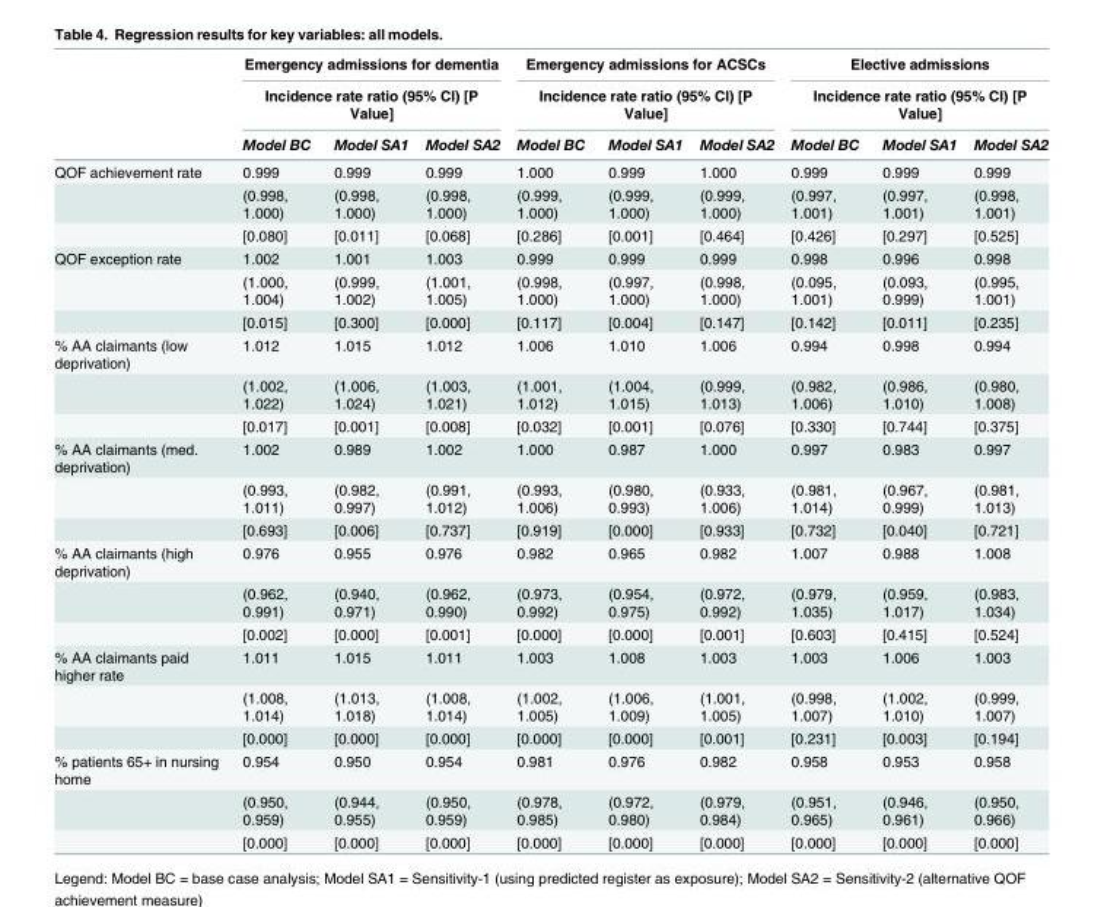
<table><thead><tr><td rowspan="3"></td><td rowspan="2" colspan="3">Emergency admissions for dementia Incidence rate ratio (95% CI) [P Value]</td><td rowspan="2" colspan="3">Emergency admissions for ACSCs Incidence rate ratio (95% CI) [P Value]</td><td rowspan="2" colspan="3">Elective admissions Incidence rate ratio (95% CI) [P Value]</td></tr><tr></tr><tr><td>Model BC</td><td>Model SA1</td><td>Model SA2</td><td>Model BC</td><td>Model SA1</td><td>Model SA2</td><td>Model BC</td><td>Model SA1</td><td>Model SA2</td></tr></thead><tbody><tr><td rowspan="3">QOF achievement rate</td><td>0.999</td><td>0.999</td><td>0.999</td><td>1.000</td><td>0.999</td><td>1.000</td><td>0.999</td><td>0.999</td><td>0.999</td></tr><tr><td>(0.998, 1.000)</td><td>(0.998, 1.000)</td><td>(0.998, 1.000)</td><td>(0.999, 1.000)</td><td>(0.999, 1.000)</td><td>(0.999, 1.000)</td><td>(0.997, 1.001)</td><td>(0.997, 1.001)</td><td>(0.998, 1.001)</td></tr><tr><td>[0.080]</td><td>[0.011]</td><td>[0.068]</td><td>[0.286]</td><td>[0.001]</td><td>[0.464]</td><td>[0.426]</td><td>[0.297]</td><td>[0.525]</td></tr><tr><td rowspan="3">QOF exception rate</td><td>1.002</td><td>1.001</td><td>1.003</td><td>0.999</td><td>0.999</td><td>0.999</td><td>0.998</td><td>0.996</td><td>0.998</td></tr><tr><td>(1.000, 1.004)</td><td>(0.999, 1.002)</td><td>(1.001, 1.005)</td><td>(0.998, 1.000)</td><td>(0.997, 1.000)</td><td>(0.998, 1.000)</td><td>(0.095, 1.001)</td><td>(0.093, 0.999)</td><td>(0.995, 1.001)</td></tr><tr><td>[0.015]</td><td>[0.300]</td><td>[0.000]</td><td>[0.117]</td><td>[0.004]</td><td>[0.147]</td><td>[0.142]</td><td>[0.011]</td><td>[0.235]</td></tr><tr><td rowspan="3">% AA claimants (low deprivation)</td><td>1.012</td><td>1.015</td><td>1.012</td><td>1.006</td><td>1.010</td><td>1.006</td><td>0.994</td><td>0.998</td><td>0.994</td></tr><tr><td>(1.002, 1.022)</td><td>(1.006, 1.024)</td><td>(1.003, 1.021)</td><td>(1.001, 1.012)</td><td>(1.004, 1.015)</td><td>(0.999, 1.013)</td><td>(0.982, 1.006)</td><td>(0.986, 1.010)</td><td>(0.980, 1.008)</td></tr><tr><td>[0.017]</td><td>[0.001]</td><td>[0.008]</td><td>[0.032]</td><td>[0.001]</td><td>[0.076]</td><td>[0.330]</td><td>[0.744]</td><td>[0.375]</td></tr><tr><td rowspan="3">% AA claimants (med. deprivation)</td><td>1.002</td><td>0.989</td><td>1.002</td><td>1.000</td><td>0.987</td><td>1.000</td><td>0.997</td><td>0.983</td><td>0.997</td></tr><tr><td>(0.993, 1.011)</td><td>(0.982, 0.997)</td><td>(0.991, 1.012)</td><td>(0.993, 1.006)</td><td>(0.980, 0.993)</td><td>(0.933, 1.006)</td><td>(0.981, 1.014)</td><td>(0.967, 0.999)</td><td>(0.981, 1.013)</td></tr><tr><td>[0.693]</td><td>[0.006]</td><td>[0.737]</td><td>[0.919]</td><td>[0.000]</td><td>[0.933]</td><td>[0.732]</td><td>[0.040]</td><td>[0.721]</td></tr><tr><td rowspan="3">% AA claimants (high deprivation)</td><td>0.976</td><td>0.955</td><td>0.976</td><td>0.982</td><td>0.965</td><td>0.982</td><td>1.007</td><td>0.988</td><td>1.008</td></tr><tr><td>(0.962, 0.991)</td><td>(0.940, 0.971)</td><td>(0.962, 0.990)</td><td>(0.973, 0.992)</td><td>(0.954, 0.975)</td><td>(0.972, 0.992)</td><td>(0.979, 1.035)</td><td>(0.959, 1.017)</td><td>(0.983, 1.034)</td></tr><tr><td>[0.002]</td><td>[0.000]</td><td>[0.001]</td><td>[0.000]</td><td>[0.000]</td><td>[0.001]</td><td>[0.603]</td><td>[0.415]</td><td>[0.524]</td></tr><tr><td rowspan="3">% AA claimants paid higher rate</td><td>1.011</td><td>1.015</td><td>1.011</td><td>1.003</td><td>1.008</td><td>1.003</td><td>1.003</td><td>1.006</td><td>1.003</td></tr><tr><td>(1.008, 1.014)</td><td>(1.013, 1.018)</td><td>(1.008, 1.014)</td><td>(1.002, 1.005)</td><td>(1.006, 1.009)</td><td>(1.001, 1.005)</td><td>(0.998, 1.007)</td><td>(1.002, 1.010)</td><td>(0.999, 1.007)</td></tr><tr><td>[0.000]</td><td>[0.000]</td><td>[0.000]</td><td>[0.000]</td><td>[0.000]</td><td>[0.001]</td><td>[0.231]</td><td>[0.003]</td><td>[0.194]</td></tr><tr><td rowspan="3">% patients 65+ in nursing home</td><td>0.954</td><td>0.950</td><td>0.954</td><td>0.981</td><td>0.976</td><td>0.982</td><td>0.958</td><td>0.953</td><td>0.958</td></tr><tr><td>(0.950, 0.959)</td><td>(0.944, 0.955)</td><td>(0.950, 0.959)</td><td>(0.978, 0.985)</td><td>(0.972, 0.980)</td><td>(0.979, 0.984)</td><td>(0.951, 0.965)</td><td>(0.946, 0.961)</td><td>(0.950, 0.966)</td></tr><tr><td>[0.000]</td><td>[0.000]</td><td>[0.000]</td><td>[0.000]</td><td>[0.000]</td><td>[0.000]</td><td>[0.000]</td><td>[0.000]</td><td>[0.000]</td></tr></tbody></table>